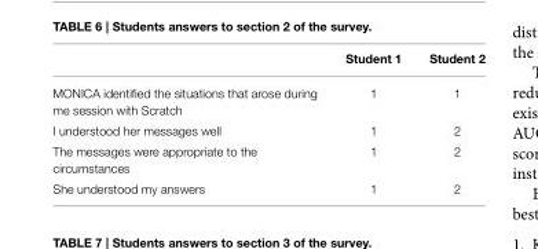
<table><thead><tr><td></td><td>Student 1</td><td>Student 2</td></tr></thead><tbody><tr><td>MONICA identified the situations that arose during me session with Scratch</td><td>1</td><td>1</td></tr><tr><td>I understood her messages well</td><td>1</td><td>2</td></tr><tr><td>The messages were appropriate to the circumstances</td><td>1</td><td>2</td></tr><tr><td>She understood my answers</td><td>1</td><td>2</td></tr></tbody></table>